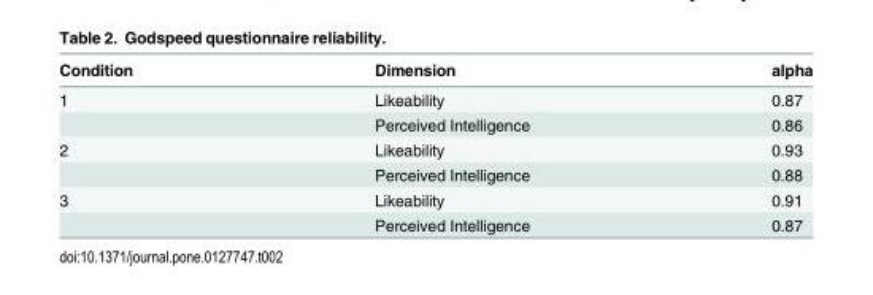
<table><thead><tr><td>Condition</td><td>Dimension</td><td>alpha</td></tr></thead><tbody><tr><td rowspan="2">1</td><td>Likeability</td><td>0.87</td></tr><tr><td>Perceived Intelligence</td><td>0.86</td></tr><tr><td rowspan="2">2</td><td>Likeability</td><td>0.93</td></tr><tr><td>Perceived Intelligence</td><td>0.88</td></tr><tr><td rowspan="2">3</td><td>Likeability</td><td>0.91</td></tr><tr><td>Perceived Intelligence</td><td>0.87</td></tr></tbody></table>